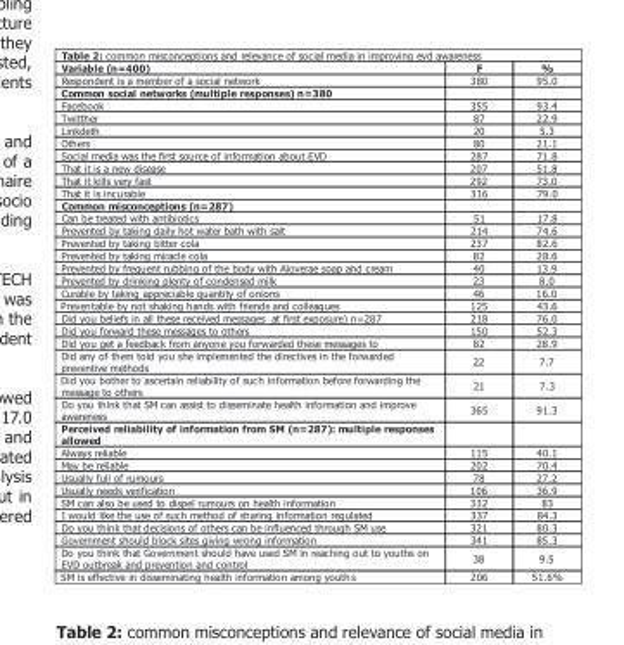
<table><thead><tr><td>Variable (n=400)</td><td>F</td><td>%</td></tr></thead><tbody><tr><td>Respondent is a member of a social network</td><td>380</td><td>95.0</td></tr><tr><td colspan="3">Common social networks (multiple responses) n=380</td></tr><tr><td>Facebook</td><td>355</td><td>93.4</td></tr><tr><td>Twitther</td><td>87</td><td>22.9</td></tr><tr><td>Linkdeth</td><td>20</td><td>5.3</td></tr><tr><td>Others</td><td>80</td><td>21.1</td></tr><tr><td>Social media was the first source of information about EVD</td><td>287</td><td>71.8</td></tr><tr><td>That it is a new disease</td><td>207</td><td>51.8</td></tr><tr><td>That it kills very fast</td><td>292</td><td>73.0</td></tr><tr><td>That it is incurable</td><td>316</td><td>79.0</td></tr><tr><td colspan="3">Common misconceptions (n=287)</td></tr><tr><td>Can be treated with antibiotics</td><td>51</td><td>17.8</td></tr><tr><td>Prevented by taking daily hot water bath with salt</td><td>214</td><td>74.6</td></tr><tr><td>Prevented by taking bitter cola</td><td>237</td><td>82.6</td></tr><tr><td>Prevented by taking miracle cola</td><td>82</td><td>28.6</td></tr><tr><td>Prevented by frequent rubbing of the body with Aloverae soap and cream</td><td>40</td><td>13.9</td></tr><tr><td>Prevented by drinking plenty of condensed milk</td><td>23</td><td>8.0</td></tr><tr><td>Curable by taking appreciable quantity of onions</td><td>46</td><td>16.0</td></tr><tr><td>Preventable by not shaking hands with friends and colleagues</td><td>125</td><td>43.6</td></tr><tr><td>Did you beliefs in all these received messages at first exposure) n=287</td><td>218</td><td>76.0</td></tr><tr><td>Did you forward these messages to others</td><td>150</td><td>52.3</td></tr><tr><td>Did you get a feedback from anyone you forwarded these messages to</td><td>82</td><td>28.9</td></tr><tr><td>Did any of them told you she implemented the directives in the forwarded preventive methods</td><td>22</td><td>7.7</td></tr><tr><td>Did you bother to ascertain reliability of such information before forwarding the message to others</td><td>21</td><td>7.3</td></tr><tr><td>Do you think that SM can assist to disseminate health information and improve awareness</td><td>365</td><td>91.3</td></tr><tr><td colspan="3">Perceived reliability of information from SM (n=287): multiple responses allowed</td></tr><tr><td>Always reliable</td><td>115</td><td>40.1</td></tr><tr><td>May be reliable</td><td>202</td><td>70.4</td></tr><tr><td>Usually full of rumours</td><td>78</td><td>27.2</td></tr><tr><td>Usually needs verification</td><td>106</td><td>36.9</td></tr><tr><td>SM can also be used to dispel rumours on health information</td><td>332</td><td>83</td></tr><tr><td>I would like the use of such method of sharing information regulated</td><td>337</td><td>84.3</td></tr><tr><td>Do you think that decisions of others can be influenced through SM use</td><td>321</td><td>80.3</td></tr><tr><td>Government should block sites giving wrong information</td><td>341</td><td>85.3</td></tr><tr><td>Do you think that Government should have used SM in reaching out to youths on EVD outbreak and prevention and control</td><td>38</td><td>9.5</td></tr><tr><td>SM is effective in disseminating health information among youths</td><td>206</td><td>51.6%</td></tr></tbody></table>